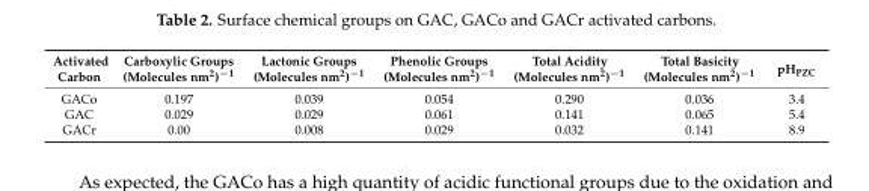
<table><thead><tr><td>Activated Carbon</td><td>Carboxylic Groups (Molecules nm<sup>2</sup>)<sup>−1</sup></td><td>Lactonic Groups (Molecules nm<sup>2</sup>)<sup>−1</sup></td><td>Phenolic Groups (Molecules nm<sup>2</sup>)<sup>−1</sup></td><td>Total Acidity (Molecules nm<sup>2</sup>)<sup>−1</sup></td><td>Total Basicity (Molecules nm<sup>2</sup>)<sup>−1</sup></td><td>pH<sub>PZC</sub></td></tr></thead><tbody><tr><td>GACo</td><td>0.197</td><td>0.039</td><td>0.054</td><td>0.290</td><td>0.036</td><td>3.4</td></tr><tr><td>GAC</td><td>0.029</td><td>0.029</td><td>0.061</td><td>0.141</td><td>0.065</td><td>5.4</td></tr><tr><td>GACr</td><td>0.00</td><td>0.008</td><td>0.029</td><td>0.032</td><td>0.141</td><td>8.9</td></tr></tbody></table>